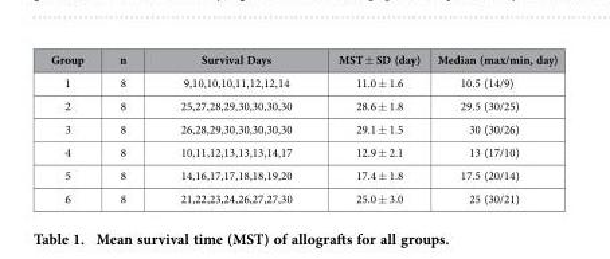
<table><thead><tr><td>Group</td><td>n</td><td>Survival Days</td><td>MST ± SD (day)</td><td>Median (max/min, day)</td></tr></thead><tbody><tr><td>1</td><td>8</td><td>9,10,10,10,11,12,12,14</td><td>11.0 ± 1.6</td><td>10.5 (14/9)</td></tr><tr><td>2</td><td>8</td><td>25,27,28,29,30,30,30,30</td><td>28.6 ± 1.8</td><td>29.5 (30/25)</td></tr><tr><td>3</td><td>8</td><td>26,28,29,30,30,30,30,30</td><td>29.1 ± 1.5</td><td>30 (30/26)</td></tr><tr><td>4</td><td>8</td><td>10,11,12,13,13,13,14,17</td><td>12.9 ± 2.1</td><td>13 (17/10)</td></tr><tr><td>5</td><td>8</td><td>14,16,17,17,18,18,19,20</td><td>17.4 ± 1.8</td><td>17.5 (20/14)</td></tr><tr><td>6</td><td>8</td><td>21,22,23,24,26,27,27,30</td><td>25.0 ± 3.0</td><td>25 (30/21)</td></tr></tbody></table>